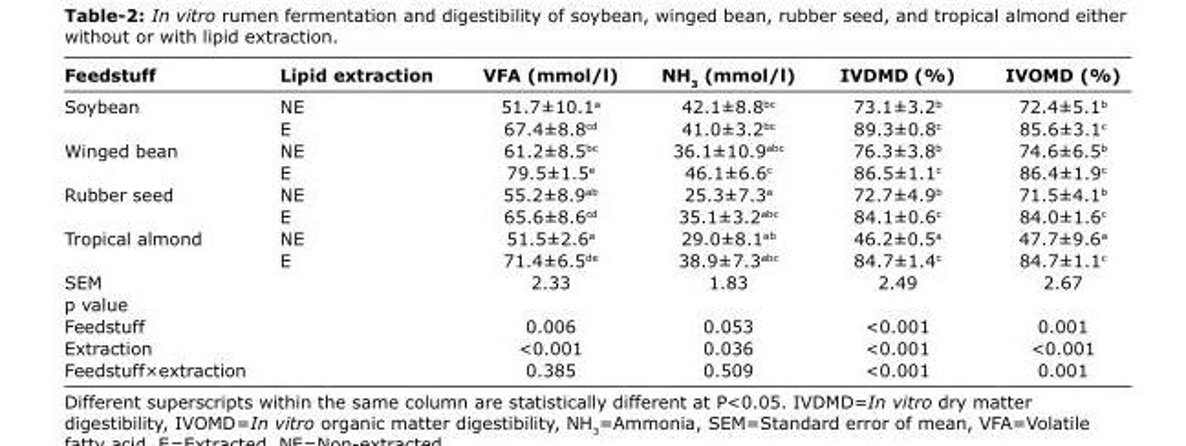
<table><thead><tr><td>Feedstuff</td><td>Lipid extraction</td><td>VFA (mmol/l)</td><td>NH<sub>3</sub> (mmol/l)</td><td>IVDMD (%)</td><td>IVOMD (%)</td></tr></thead><tbody><tr><td rowspan="2">Soybean</td><td>NE</td><td>51.7±10.1<sup>a</sup></td><td>42.1±8.8<sup>bc</sup></td><td>73.1±3.2<sup>b</sup></td><td>72.4±5.1<sup>b</sup></td></tr><tr><td>E</td><td>67.4±8.8<sup>cd</sup></td><td>41.0±3.2<sup>bc</sup></td><td>89.3±0.8<sup>c</sup></td><td>85.6±3.1<sup>c</sup></td></tr><tr><td rowspan="2">Winged bean</td><td>NE</td><td>61.2±8.5<sup>bc</sup></td><td>36.1±10.9<sup>abc</sup></td><td>76.3±3.8<sup>b</sup></td><td>74.6±6.5<sup>b</sup></td></tr><tr><td>E</td><td>79.5±1.5<sup>e</sup></td><td>46.1±6.6<sup>c</sup></td><td>86.5±1.1<sup>c</sup></td><td>86.4±1.9<sup>c</sup></td></tr><tr><td rowspan="2">Rubber seed</td><td>NE</td><td>55.2±8.9<sup>ab</sup></td><td>25.3±7.3<sup>a</sup></td><td>72.7±4.9<sup>b</sup></td><td>71.5±4.1<sup>b</sup></td></tr><tr><td>E</td><td>65.6±8.6<sup>cd</sup></td><td>35.1±3.2<sup>abc</sup></td><td>84.1±0.6<sup>c</sup></td><td>84.0±1.6<sup>c</sup></td></tr><tr><td rowspan="2">Tropical almond</td><td>NE</td><td>51.5±2.6<sup>a</sup></td><td>29.0±8.1<sup>ab</sup></td><td>46.2±0.5<sup>a</sup></td><td>47.7±9.6<sup>a</sup></td></tr><tr><td>E</td><td>71.4±6.5<sup>de</sup></td><td>38.9±7.3<sup>abc</sup></td><td>84.7±1.4<sup>c</sup></td><td>84.7±1.1<sup>c</sup></td></tr><tr><td>SEM</td><td></td><td>2.33</td><td>1.83</td><td>2.49</td><td>2.67</td></tr><tr><td colspan="6">p value</td></tr><tr><td>Feedstuff</td><td></td><td>0.006</td><td>0.053</td><td>&lt;0.001</td><td>0.001</td></tr><tr><td>Extraction</td><td></td><td>&lt;0.001</td><td>0.036</td><td>&lt;0.001</td><td>&lt;0.001</td></tr><tr><td>Feedstuff×extraction</td><td></td><td>0.385</td><td>0.509</td><td>&lt;0.001</td><td>0.001</td></tr></tbody></table>